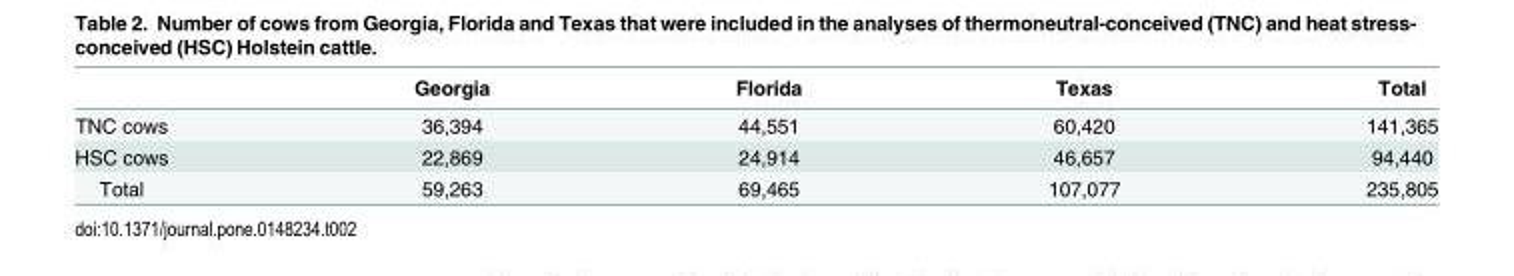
<table><thead><tr><td></td><td>Georgia</td><td>Florida</td><td>Texas</td><td>Total</td></tr></thead><tbody><tr><td>TNC cows</td><td>36,394</td><td>44,551</td><td>60,420</td><td>141,365</td></tr><tr><td>HSC cows</td><td>22,869</td><td>24,914</td><td>46,657</td><td>94,440</td></tr><tr><td>Total</td><td>59,263</td><td>69,465</td><td>107,077</td><td>235,805</td></tr></tbody></table>